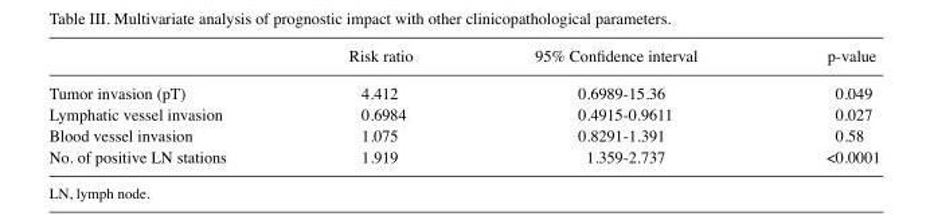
<table><thead><tr><td></td><td>Risk ratio</td><td>95% Confidence interval</td><td>p-value</td></tr></thead><tbody><tr><td>Tumor invasion (pT)</td><td>4.412</td><td>0.6989-15.36</td><td>0.049</td></tr><tr><td>Lymphatic vessel invasion</td><td>0.6984</td><td>0.4915-0.9611</td><td>0.027</td></tr><tr><td>Blood vessel invasion</td><td>1.075</td><td>0.8291-1.391</td><td>0.58</td></tr><tr><td>No. of positive LN stations</td><td>1.919</td><td>1.359-2.737</td><td>&lt;0.0001</td></tr></tbody></table>